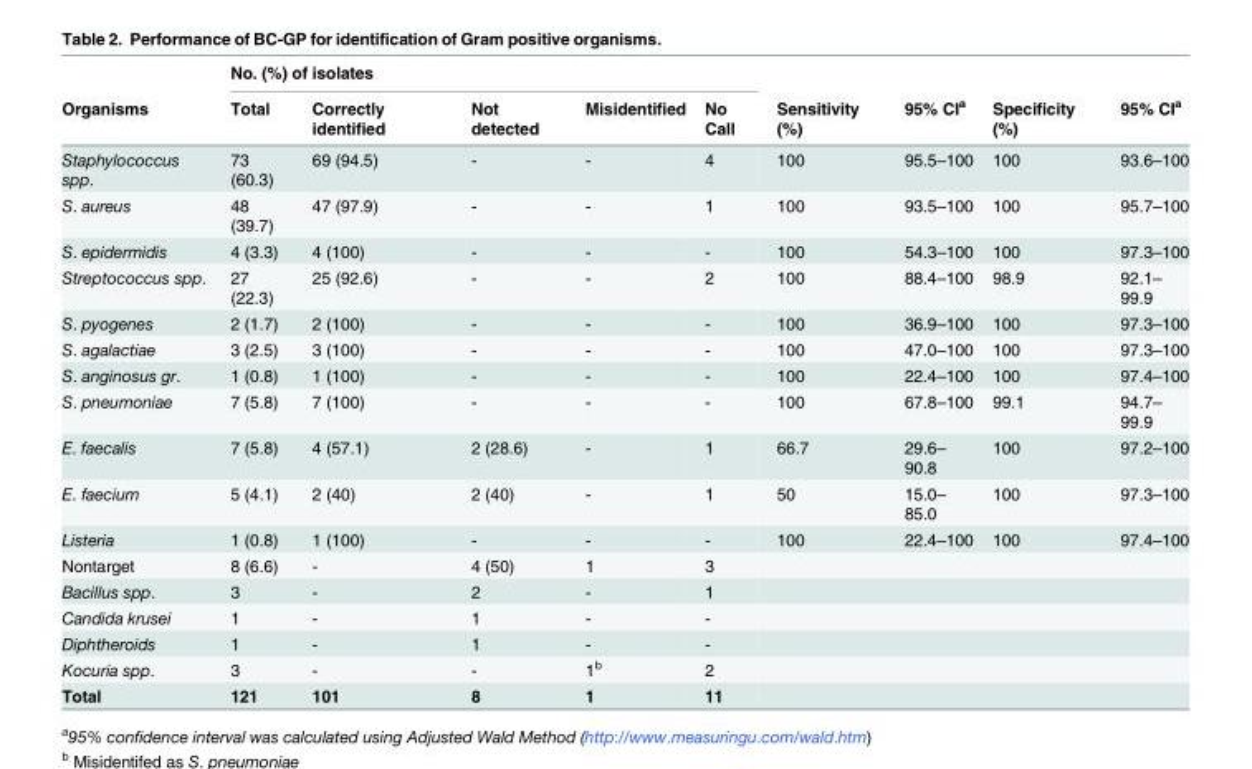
<table><thead><tr><td rowspan="2">Organisms</td><td colspan="5">No. (%) of isolates</td><td rowspan="2">Sensitivity (%)</td><td rowspan="2">95% CI<sup>a</sup></td><td rowspan="2">Specificity (%)</td><td rowspan="2">95% CI<sup>a</sup></td></tr><tr><td>Total</td><td>Correctly identified</td><td>Not detected</td><td>Misidentified</td><td>No Call</td></tr></thead><tbody><tr><td>Staphylococcus spp.</td><td>73 (60.3)</td><td>69 (94.5)</td><td>-</td><td>-</td><td>4</td><td>100</td><td>95.5–100</td><td>100</td><td>93.6–100</td></tr><tr><td>S. aureus</td><td>48 (39.7)</td><td>47 (97.9)</td><td>-</td><td>-</td><td>1</td><td>100</td><td>93.5–100</td><td>100</td><td>95.7–100</td></tr><tr><td>S. epidermidis</td><td>4 (3.3)</td><td>4 (100)</td><td>-</td><td>-</td><td>-</td><td>100</td><td>54.3–100</td><td>100</td><td>97.3–100</td></tr><tr><td>Streptococcus spp.</td><td>27 (22.3)</td><td>25 (92.6)</td><td>-</td><td>-</td><td>2</td><td>100</td><td>88.4–100</td><td>98.9</td><td>92.1– 99.9</td></tr><tr><td>S. pyogenes</td><td>2 (1.7)</td><td>2 (100)</td><td>-</td><td>-</td><td>-</td><td>100</td><td>36.9–100</td><td>100</td><td>97.3–100</td></tr><tr><td>S. agalactiae</td><td>3 (2.5)</td><td>3 (100)</td><td>-</td><td>-</td><td>-</td><td>100</td><td>47.0–100</td><td>100</td><td>97.3–100</td></tr><tr><td>S. anginosus gr.</td><td>1 (0.8)</td><td>1 (100)</td><td>-</td><td>-</td><td>-</td><td>100</td><td>22.4–100</td><td>100</td><td>97.4–100</td></tr><tr><td>S. pneumoniae</td><td>7 (5.8)</td><td>7 (100)</td><td>-</td><td>-</td><td>-</td><td>100</td><td>67.8–100</td><td>99.1</td><td>94.7– 99.9</td></tr><tr><td>E. faecalis</td><td>7 (5.8)</td><td>4 (57.1)</td><td>2 (28.6)</td><td>-</td><td>1</td><td>66.7</td><td>29.6– 90.8</td><td>100</td><td>97.2–100</td></tr><tr><td>E. faecium</td><td>5 (4.1)</td><td>2 (40)</td><td>2 (40)</td><td>-</td><td>1</td><td>50</td><td>15.0– 85.0</td><td>100</td><td>97.3–100</td></tr><tr><td>Listeria</td><td>1 (0.8)</td><td>1 (100)</td><td>-</td><td>-</td><td>-</td><td>100</td><td>22.4–100</td><td>100</td><td>97.4–100</td></tr><tr><td>Nontarget</td><td>8 (6.6)</td><td>-</td><td>4 (50)</td><td>1</td><td>3</td><td></td><td></td><td></td><td></td></tr><tr><td>Bacillus spp.</td><td>3</td><td>-</td><td>2</td><td>-</td><td>1</td><td></td><td></td><td></td><td></td></tr><tr><td>Candida krusei</td><td>1</td><td>-</td><td>1</td><td>-</td><td>-</td><td></td><td></td><td></td><td></td></tr><tr><td>Diphtheroids</td><td>1</td><td>-</td><td>1</td><td>-</td><td>-</td><td></td><td></td><td></td><td></td></tr><tr><td>Kocuria spp.</td><td>3</td><td>-</td><td>-</td><td>1<sup>b</sup></td><td>2</td><td></td><td></td><td></td><td></td></tr><tr><td>Total</td><td>121</td><td>101</td><td>8</td><td>1</td><td>11</td><td></td><td></td><td></td><td></td></tr></tbody></table>